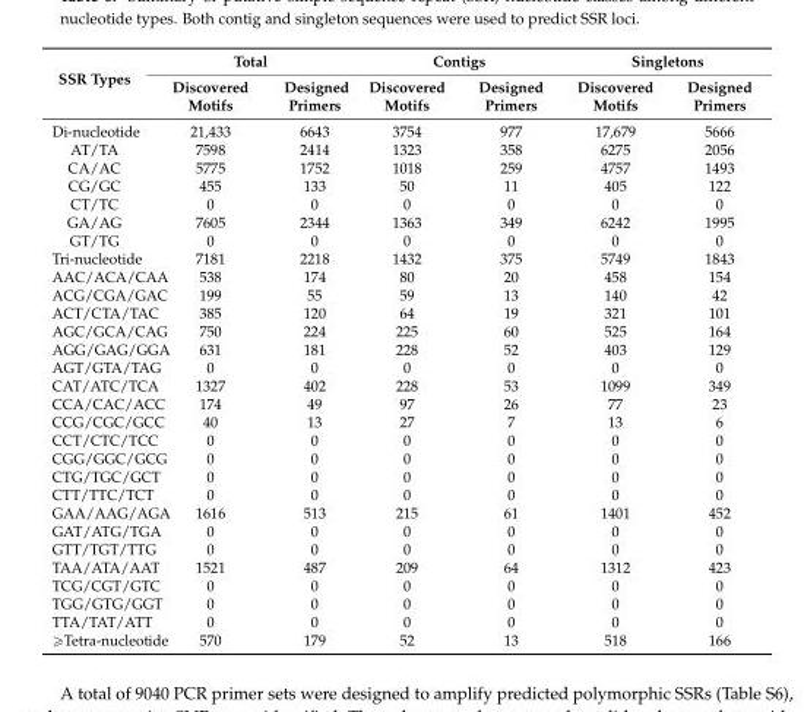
<table><thead><tr><td rowspan="2">SSR Types</td><td colspan="2">Total</td><td colspan="2">Contigs</td><td colspan="2">Singletons</td></tr><tr><td>Discovered Motifs</td><td>Designed Primers</td><td>Discovered Motifs</td><td>Designed Primers</td><td>Discovered Motifs</td><td>Designed Primers</td></tr></thead><tbody><tr><td>Di-nucleotide</td><td>21,433</td><td>6643</td><td>3754</td><td>977</td><td>17,679</td><td>5666</td></tr><tr><td>AT/TA</td><td>7598</td><td>2414</td><td>1323</td><td>358</td><td>6275</td><td>2056</td></tr><tr><td>CA/AC</td><td>5775</td><td>1752</td><td>1018</td><td>259</td><td>4757</td><td>1493</td></tr><tr><td>CG/GC</td><td>455</td><td>133</td><td>50</td><td>11</td><td>405</td><td>122</td></tr><tr><td>CT/TC</td><td>0</td><td>0</td><td>0</td><td>0</td><td>0</td><td>0</td></tr><tr><td>GA/AG</td><td>7605</td><td>2344</td><td>1363</td><td>349</td><td>6242</td><td>1995</td></tr><tr><td>GT/TG</td><td>0</td><td>0</td><td>0</td><td>0</td><td>0</td><td>0</td></tr><tr><td>Tri-nucleotide</td><td>7181</td><td>2218</td><td>1432</td><td>375</td><td>5749</td><td>1843</td></tr><tr><td>AAC/ACA/CAA</td><td>538</td><td>174</td><td>80</td><td>20</td><td>458</td><td>154</td></tr><tr><td>ACG/CGA/GAC</td><td>199</td><td>55</td><td>59</td><td>13</td><td>140</td><td>42</td></tr><tr><td>ACT/CTA/TAC</td><td>385</td><td>120</td><td>64</td><td>19</td><td>321</td><td>101</td></tr><tr><td>AGC/GCA/CAG</td><td>750</td><td>224</td><td>225</td><td>60</td><td>525</td><td>164</td></tr><tr><td>AGG/GAG/GGA</td><td>631</td><td>181</td><td>228</td><td>52</td><td>403</td><td>129</td></tr><tr><td>AGT/GTA/TAG</td><td>0</td><td>0</td><td>0</td><td>0</td><td>0</td><td>0</td></tr><tr><td>CAT/ATC/TCA</td><td>1327</td><td>402</td><td>228</td><td>53</td><td>1099</td><td>349</td></tr><tr><td>CCA/CAC/ACC</td><td>174</td><td>49</td><td>97</td><td>26</td><td>77</td><td>23</td></tr><tr><td>CCG/CGC/GCC</td><td>40</td><td>13</td><td>27</td><td>7</td><td>13</td><td>6</td></tr><tr><td>CCT/CTC/TCC</td><td>0</td><td>0</td><td>0</td><td>0</td><td>0</td><td>0</td></tr><tr><td>CGG/GGC/GCG</td><td>0</td><td>0</td><td>0</td><td>0</td><td>0</td><td>0</td></tr><tr><td>CTG/TGC/GCT</td><td>0</td><td>0</td><td>0</td><td>0</td><td>0</td><td>0</td></tr><tr><td>CTT/TTC/TCT</td><td>0</td><td>0</td><td>0</td><td>0</td><td>0</td><td>0</td></tr><tr><td>GAA/AAG/AGA</td><td>1616</td><td>513</td><td>215</td><td>61</td><td>1401</td><td>452</td></tr><tr><td>GAT/ATG/TGA</td><td>0</td><td>0</td><td>0</td><td>0</td><td>0</td><td>0</td></tr><tr><td>GTT/TGT/TTG</td><td>0</td><td>0</td><td>0</td><td>0</td><td>0</td><td>0</td></tr><tr><td>TAA/ATA/AAT</td><td>1521</td><td>487</td><td>209</td><td>64</td><td>1312</td><td>423</td></tr><tr><td>TCG/CGT/GTC</td><td>0</td><td>0</td><td>0</td><td>0</td><td>0</td><td>0</td></tr><tr><td>TGG/GTG/GGT</td><td>0</td><td>0</td><td>0</td><td>0</td><td>0</td><td>0</td></tr><tr><td>TTA/TAT/ATT</td><td>0</td><td>0</td><td>0</td><td>0</td><td>0</td><td>0</td></tr><tr><td>ěTetra-nucleotide</td><td>570</td><td>179</td><td>52</td><td>13</td><td>518</td><td>166</td></tr></tbody></table>